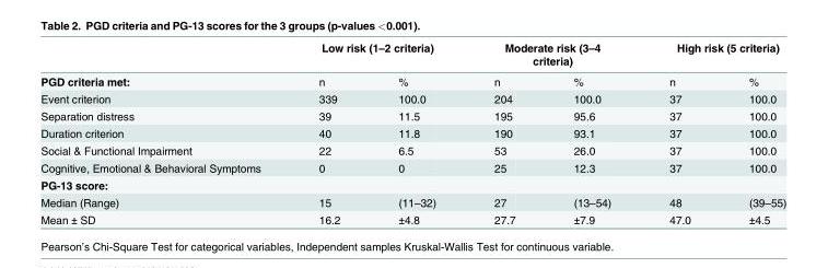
<table><thead><tr><td rowspan="2">PGD criteria met:</td><td colspan="2">Low risk (1–2 criteria)</td><td colspan="2">Moderate risk (3–4 criteria)</td><td colspan="2">High risk (5 criteria)</td></tr><tr><td>n</td><td>%</td><td>n</td><td>%</td><td>n</td><td>%</td></tr></thead><tbody><tr><td>Event criterion</td><td>339</td><td>100.0</td><td>204</td><td>100.0</td><td>37</td><td>100.0</td></tr><tr><td>Separation distress</td><td>39</td><td>11.5</td><td>195</td><td>95.6</td><td>37</td><td>100.0</td></tr><tr><td>Duration criterion</td><td>40</td><td>11.8</td><td>190</td><td>93.1</td><td>37</td><td>100.0</td></tr><tr><td>Social &amp; Functional Impairment</td><td>22</td><td>6.5</td><td>53</td><td>26.0</td><td>37</td><td>100.0</td></tr><tr><td>Cognitive, Emotional &amp; Behavioral Symptoms</td><td>0</td><td>0</td><td>25</td><td>12.3</td><td>37</td><td>100.0</td></tr><tr><td colspan="7">PG-13 score:</td></tr><tr><td>Median (Range)</td><td>15</td><td>(11–32)</td><td>27</td><td>(13–54)</td><td>48</td><td>(39–55)</td></tr><tr><td>Mean ± SD</td><td>16.2</td><td>±4.8</td><td>27.7</td><td>±7.9</td><td>47.0</td><td>±4.5</td></tr></tbody></table>